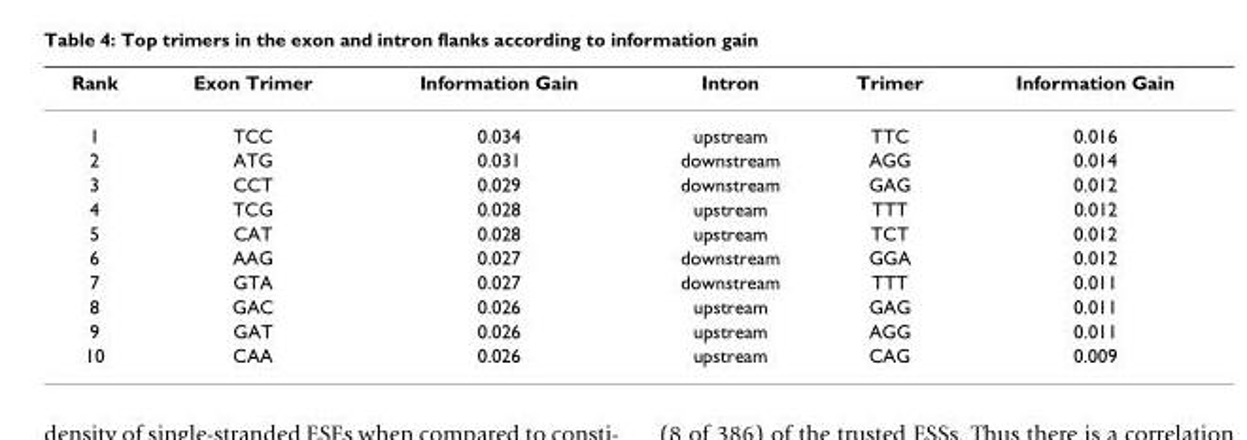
<table><thead><tr><td>Rank</td><td>Exon Trimer</td><td>Information Gain</td><td>Intron</td><td>Trimer</td><td>Information Gain</td></tr></thead><tbody><tr><td>1</td><td>TCC</td><td>0.034</td><td>upstream</td><td>TTC</td><td>0.016</td></tr><tr><td>2</td><td>ATG</td><td>0.031</td><td>downstream</td><td>AGG</td><td>0.014</td></tr><tr><td>3</td><td>CCT</td><td>0.029</td><td>downstream</td><td>GAG</td><td>0.012</td></tr><tr><td>4</td><td>TCG</td><td>0.028</td><td>upstream</td><td>TTT</td><td>0.012</td></tr><tr><td>5</td><td>CAT</td><td>0.028</td><td>upstream</td><td>TCT</td><td>0.012</td></tr><tr><td>6</td><td>AAG</td><td>0.027</td><td>downstream</td><td>GGA</td><td>0.012</td></tr><tr><td>7</td><td>GTA</td><td>0.027</td><td>downstream</td><td>TTT</td><td>0.011</td></tr><tr><td>8</td><td>GAC</td><td>0.026</td><td>upstream</td><td>GAG</td><td>0.011</td></tr><tr><td>9</td><td>GAT</td><td>0.026</td><td>upstream</td><td>AGG</td><td>0.011</td></tr><tr><td>10</td><td>CAA</td><td>0.026</td><td>upstream</td><td>CAG</td><td>0.009</td></tr></tbody></table>